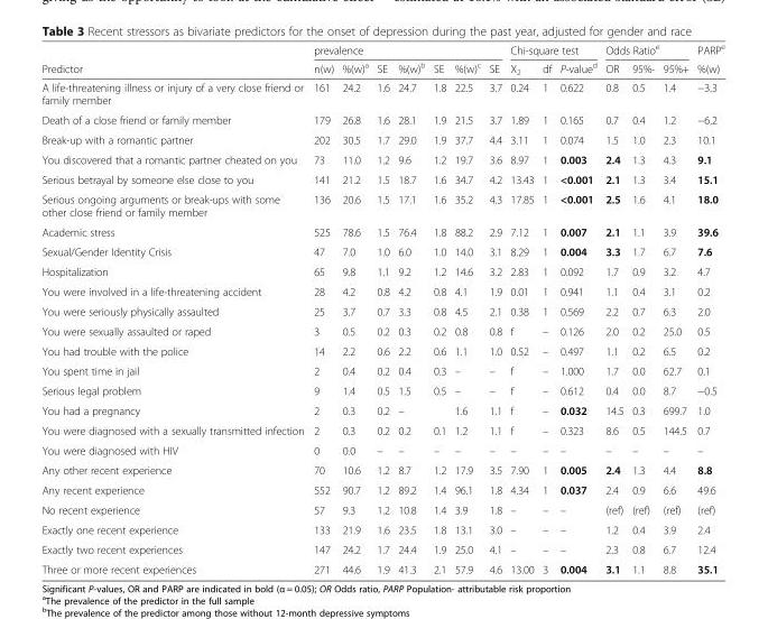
<table><thead><tr><td rowspan="2">Predictor</td><td colspan="7">prevalence</td><td colspan="3">Chi-square test</td><td colspan="3">Odds Ratio<sup>e</sup></td><td rowspan="2">PARP<sup>e</sup> %(w)</td></tr><tr><td>n(w)</td><td>%(w)<sup>a</sup></td><td>SE</td><td>%(w)<sup>b</sup></td><td>SE</td><td>%(w)<sup>c</sup></td><td>SE</td><td>X<sub>2</sub></td><td>df</td><td>P-value<sup>d</sup></td><td>OR</td><td>95%-</td><td>95%+</td></tr></thead><tbody><tr><td>A life-threatening illness or injury of a very close friend or family member</td><td>161</td><td>24.2</td><td>1.6</td><td>24.7</td><td>1.8</td><td>22.5</td><td>3.7</td><td>0.24</td><td>1</td><td>0.622</td><td>0.8</td><td>0.5</td><td>1.4</td><td>−3.3</td></tr><tr><td>Death of a close friend or family member</td><td>179</td><td>26.8</td><td>1.6</td><td>28.1</td><td>1.9</td><td>21.5</td><td>3.7</td><td>1.89</td><td>1</td><td>0.165</td><td>0.7</td><td>0.4</td><td>1.2</td><td>−6.2</td></tr><tr><td>Break-up with a romantic partner</td><td>202</td><td>30.5</td><td>1.7</td><td>29.0</td><td>1.9</td><td>37.7</td><td>4.4</td><td>3.11</td><td>1</td><td>0.074</td><td>1.5</td><td>1.0</td><td>2.3</td><td>10.1</td></tr><tr><td>You discovered that a romantic partner cheated on you</td><td>73</td><td>11.0</td><td>1.2</td><td>9.6</td><td>1.2</td><td>19.7</td><td>3.6</td><td>8.97</td><td>1</td><td>0.003</td><td>2.4</td><td>1.3</td><td>4.3</td><td>9.1</td></tr><tr><td>Serious betrayal by someone else close to you</td><td>141</td><td>21.2</td><td>1.5</td><td>18.7</td><td>1.6</td><td>34.7</td><td>4.2</td><td>13.43</td><td>1</td><td>&lt;0.001</td><td>2.1</td><td>1.3</td><td>3.4</td><td>15.1</td></tr><tr><td>Serious ongoing arguments or break-ups with some other close friend or family member</td><td>136</td><td>20.6</td><td>1.5</td><td>17.1</td><td>1.6</td><td>35.2</td><td>4.3</td><td>17.85</td><td>1</td><td>&lt;0.001</td><td>2.5</td><td>1.6</td><td>4.1</td><td>18.0</td></tr><tr><td>Academic stress</td><td>525</td><td>78.6</td><td>1.5</td><td>76.4</td><td>1.8</td><td>88.2</td><td>2.9</td><td>7.12</td><td>1</td><td>0.007</td><td>2.1</td><td>1.1</td><td>3.9</td><td>39.6</td></tr><tr><td>Sexual/Gender Identity Crisis</td><td>47</td><td>7.0</td><td>1.0</td><td>6.0</td><td>1.0</td><td>14.0</td><td>3.1</td><td>8.29</td><td>1</td><td>0.004</td><td>3.3</td><td>1.7</td><td>6.7</td><td>7.6</td></tr><tr><td>Hospitalization</td><td>65</td><td>9.8</td><td>1.1</td><td>9.2</td><td>1.2</td><td>14.6</td><td>3.2</td><td>2.83</td><td>1</td><td>0.092</td><td>1.7</td><td>0.9</td><td>3.2</td><td>4.7</td></tr><tr><td>You were involved in a life-threatening accident</td><td>28</td><td>4.2</td><td>0.8</td><td>4.2</td><td>0.8</td><td>4.1</td><td>1.9</td><td>0.01</td><td>1</td><td>0.941</td><td>1.1</td><td>0.4</td><td>3.1</td><td>0.2</td></tr><tr><td>You were seriously physically assaulted</td><td>25</td><td>3.7</td><td>0.7</td><td>3.3</td><td>0.8</td><td>4.5</td><td>2.1</td><td>0.38</td><td>1</td><td>0.569</td><td>2.2</td><td>0.7</td><td>6.3</td><td>2.0</td></tr><tr><td>You were sexually assaulted or raped</td><td>3</td><td>0.5</td><td>0.2</td><td>0.3</td><td>0.2</td><td>0.8</td><td>0.8</td><td>f</td><td>–</td><td>0.126</td><td>2.0</td><td>0.2</td><td>25.0</td><td>0.5</td></tr><tr><td>You had trouble with the police</td><td>14</td><td>2.2</td><td>0.6</td><td>2.2</td><td>0.6</td><td>1.1</td><td>1.0</td><td>0.52</td><td>–</td><td>0.497</td><td>1.1</td><td>0.2</td><td>6.5</td><td>0.2</td></tr><tr><td>You spent time in jail</td><td>2</td><td>0.4</td><td>0.2</td><td>0.4</td><td>0.3</td><td>–</td><td>–</td><td>f</td><td>–</td><td>1.000</td><td>1.7</td><td>0.0</td><td>62.7</td><td>0.1</td></tr><tr><td>Serious legal problem</td><td>9</td><td>1.4</td><td>0.5</td><td>1.5</td><td>0.5</td><td>–</td><td>–</td><td>f</td><td>–</td><td>0.612</td><td>0.4</td><td>0.0</td><td>8.7</td><td>−0.5</td></tr><tr><td>You had a pregnancy</td><td>2</td><td>0.3</td><td>0.2</td><td>–</td><td></td><td>1.6</td><td>1.1</td><td>f</td><td>–</td><td>0.032</td><td>14.5</td><td>0.3</td><td>699.7</td><td>1.0</td></tr><tr><td>You were diagnosed with a sexually transmitted infection</td><td>2</td><td>0.3</td><td>0.2</td><td>0.2</td><td>0.1</td><td>1.2</td><td>1.1</td><td>f</td><td>–</td><td>0.323</td><td>8.6</td><td>0.5</td><td>144.5</td><td>0.7</td></tr><tr><td>You were diagnosed with HIV</td><td>0</td><td>0.0</td><td>–</td><td>–</td><td>–</td><td>–</td><td>–</td><td>–</td><td>–</td><td>–</td><td>–</td><td>–</td><td>–</td><td>–</td></tr><tr><td>Any other recent experience</td><td>70</td><td>10.6</td><td>1.2</td><td>8.7</td><td>1.2</td><td>17.9</td><td>3.5</td><td>7.90</td><td>1</td><td>0.005</td><td>2.4</td><td>1.3</td><td>4.4</td><td>8.8</td></tr><tr><td>Any recent experience</td><td>552</td><td>90.7</td><td>1.2</td><td>89.2</td><td>1.4</td><td>96.1</td><td>1.8</td><td>4.34</td><td>1</td><td>0.037</td><td>2.4</td><td>0.9</td><td>6.6</td><td>49.6</td></tr><tr><td>No recent experience</td><td>57</td><td>9.3</td><td>1.2</td><td>10.8</td><td>1.4</td><td>3.9</td><td>1.8</td><td>–</td><td>–</td><td>–</td><td>(ref)</td><td>(ref)</td><td>(ref)</td><td>(ref)</td></tr><tr><td>Exactly one recent experience</td><td>133</td><td>21.9</td><td>1.6</td><td>23.5</td><td>1.8</td><td>13.1</td><td>3.0</td><td>–</td><td>–</td><td>–</td><td>1.2</td><td>0.4</td><td>3.9</td><td>2.4</td></tr><tr><td>Exactly two recent experiences</td><td>147</td><td>24.2</td><td>1.7</td><td>24.4</td><td>1.9</td><td>25.0</td><td>4.1</td><td>–</td><td>–</td><td>–</td><td>2.3</td><td>0.8</td><td>6.7</td><td>12.4</td></tr><tr><td>Three or more recent experiences</td><td>271</td><td>44.6</td><td>1.9</td><td>41.3</td><td>2.1</td><td>57.9</td><td>4.6</td><td>13.00</td><td>3</td><td>0.004</td><td>3.1</td><td>1.1</td><td>8.8</td><td>35.1</td></tr></tbody></table>